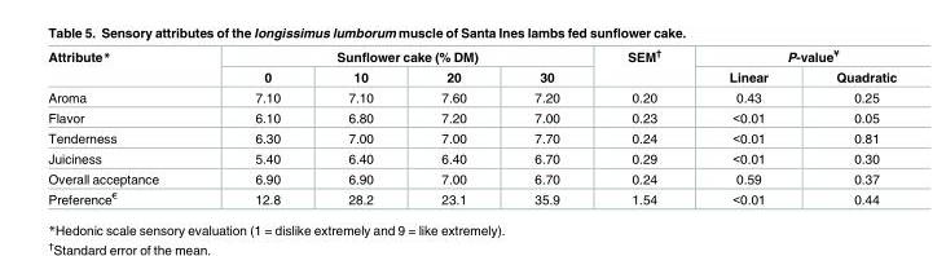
<table><thead><tr><td rowspan="2">Attribute*</td><td colspan="4">Sunflower cake (% DM)</td><td rowspan="2">SEM<sup>†</sup></td><td colspan="2">P-value<sup>¥</sup></td></tr><tr><td>0</td><td>10</td><td>20</td><td>30</td><td>Linear</td><td>Quadratic</td></tr></thead><tbody><tr><td>Aroma</td><td>7.10</td><td>7.10</td><td>7.60</td><td>7.20</td><td>0.20</td><td>0.43</td><td>0.25</td></tr><tr><td>Flavor</td><td>6.10</td><td>6.80</td><td>7.20</td><td>7.00</td><td>0.23</td><td>&lt;0.01</td><td>0.05</td></tr><tr><td>Tenderness</td><td>6.30</td><td>7.00</td><td>7.00</td><td>7.70</td><td>0.24</td><td>&lt;0.01</td><td>0.81</td></tr><tr><td>Juiciness</td><td>5.40</td><td>6.40</td><td>6.40</td><td>6.70</td><td>0.29</td><td>&lt;0.01</td><td>0.30</td></tr><tr><td>Overall acceptance</td><td>6.90</td><td>6.90</td><td>7.00</td><td>6.70</td><td>0.24</td><td>0.59</td><td>0.37</td></tr><tr><td>Preference<sup>€</sup></td><td>12.8</td><td>28.2</td><td>23.1</td><td>35.9</td><td>1.54</td><td>&lt;0.01</td><td>0.44</td></tr></tbody></table>